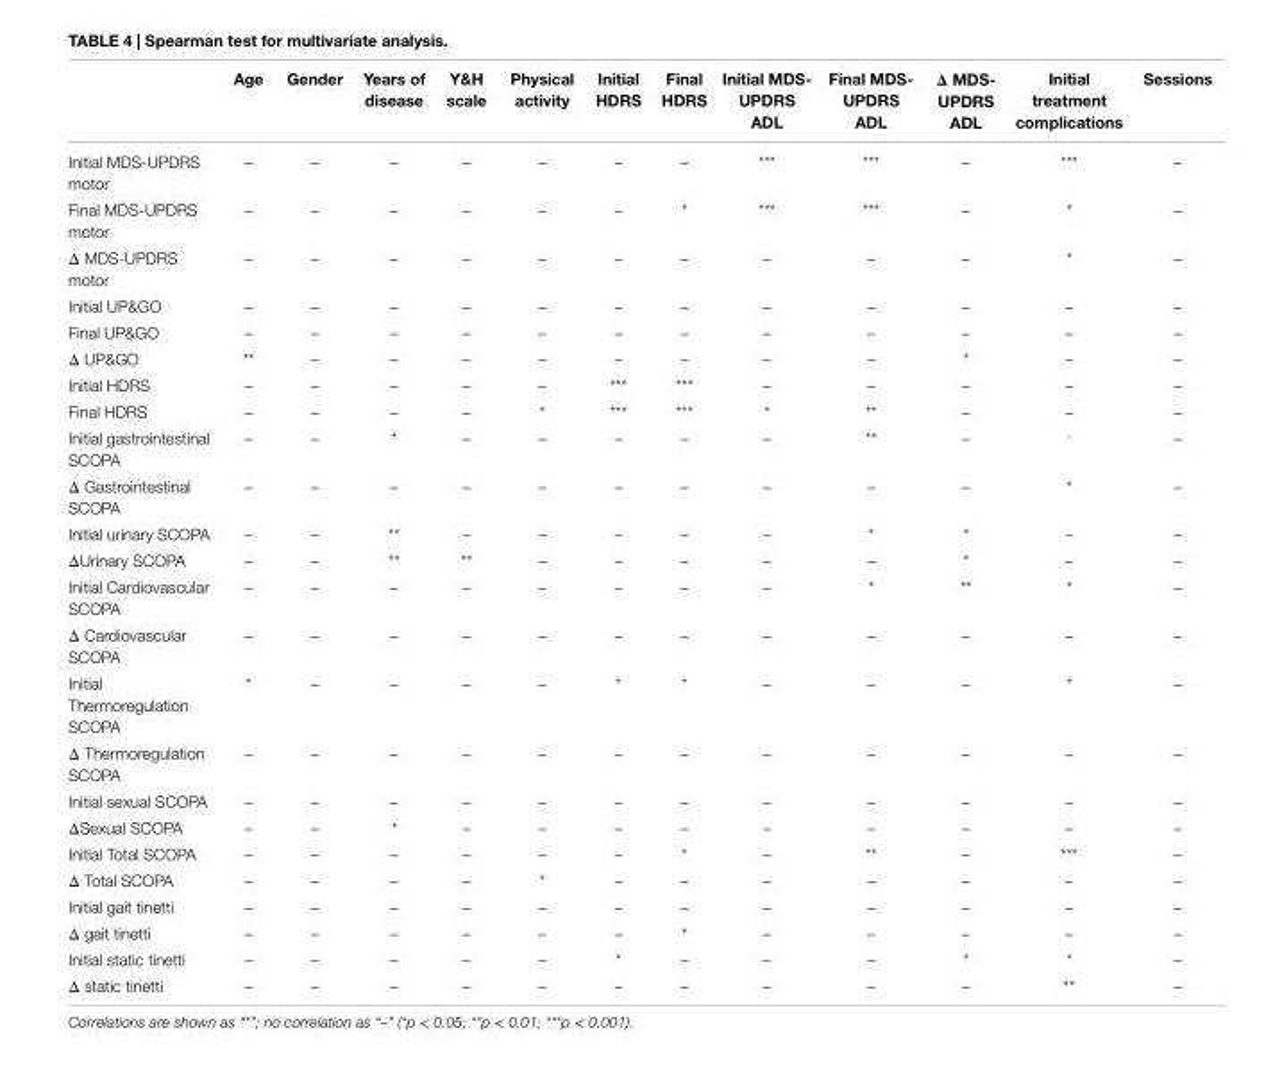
<table><thead><tr><td></td><td>age</td><td>gender</td><td>Years of disease</td><td>Y&amp;h scale</td><td>Physical activity</td><td>initial hDrs</td><td>Final hDrs</td><td>initial MDs- UPDrs aDl</td><td>Final MDs- UPDrs aDl</td><td>Δ MDs- UPDrs aDl</td><td>initial treatment complications</td><td>sessions</td></tr></thead><tbody><tr><td>Initial MDS-UPDRS motor</td><td>–</td><td>–</td><td>–</td><td>–</td><td>–</td><td>–</td><td>–</td><td>***</td><td>***</td><td>–</td><td>***</td><td>–</td></tr><tr><td>Final MDS-UPDRS motor</td><td>–</td><td>–</td><td>–</td><td>–</td><td>–</td><td>–</td><td>*</td><td>***</td><td>***</td><td>–</td><td>*</td><td>–</td></tr><tr><td>Δ MDS-UPDRS motor</td><td>–</td><td>–</td><td>–</td><td>–</td><td>–</td><td>–</td><td>–</td><td>–</td><td>–</td><td>–</td><td>*</td><td>–</td></tr><tr><td>Initial UP&amp;GO</td><td>–</td><td>–</td><td>–</td><td>–</td><td>–</td><td>–</td><td>–</td><td>–</td><td>–</td><td>–</td><td>–</td><td>–</td></tr><tr><td>Final UP&amp;GO</td><td>–</td><td>–</td><td>–</td><td>–</td><td>–</td><td>–</td><td>–</td><td>–</td><td>–</td><td>–</td><td>–</td><td>–</td></tr><tr><td>Δ UP&amp;GO</td><td>**</td><td>–</td><td>–</td><td>–</td><td>–</td><td>–</td><td>–</td><td>–</td><td>–</td><td>*</td><td>–</td><td>–</td></tr><tr><td>Initial HDRS</td><td>–</td><td>–</td><td>–</td><td>–</td><td>–</td><td>***</td><td>***</td><td>–</td><td>–</td><td>–</td><td>–</td><td>–</td></tr><tr><td>Final HDRS</td><td>–</td><td>–</td><td>–</td><td>–</td><td>*</td><td>***</td><td>***</td><td>*</td><td>**</td><td>–</td><td>–</td><td>–</td></tr><tr><td>Initial gastrointestinal SCOPA</td><td>–</td><td>–</td><td>*</td><td>–</td><td>–</td><td>–</td><td>–</td><td>–</td><td>**</td><td>–</td><td><sup>–</sup></td><td>–</td></tr><tr><td>Δ Gastrointestinal SCOPA</td><td>–</td><td>–</td><td>–</td><td>–</td><td>–</td><td>–</td><td>–</td><td>–</td><td>–</td><td>–</td><td>*</td><td>–</td></tr><tr><td>Initial urinary SCOPA</td><td>–</td><td>–</td><td>**</td><td>–</td><td>–</td><td>–</td><td>–</td><td>–</td><td>*</td><td>*</td><td>–</td><td>–</td></tr><tr><td>ΔUrinary SCOPA</td><td>–</td><td>–</td><td>**</td><td>**</td><td>–</td><td>–</td><td>–</td><td>–</td><td>–</td><td>*</td><td>–</td><td>–</td></tr><tr><td>Initial Cardiovascular SCOPA</td><td>–</td><td>–</td><td>–</td><td>–</td><td>–</td><td>–</td><td>–</td><td>–</td><td>*</td><td>**</td><td>*</td><td>–</td></tr><tr><td>Δ Cardiovascular SCOPA</td><td>–</td><td>–</td><td>–</td><td>–</td><td>–</td><td>–</td><td>–</td><td>–</td><td>–</td><td>–</td><td>–</td><td>–</td></tr><tr><td>Initial Thermoregulation SCOPA</td><td>*</td><td>–</td><td>–</td><td>–</td><td>–</td><td>*</td><td>*</td><td>–</td><td>–</td><td>–</td><td>*</td><td>–</td></tr><tr><td>Δ Thermoregulation SCOPA</td><td>–</td><td>–</td><td>–</td><td>–</td><td>–</td><td>–</td><td>–</td><td>–</td><td>–</td><td>–</td><td>–</td><td>–</td></tr><tr><td>Initial sexual SCOPA</td><td>–</td><td>–</td><td>–</td><td>–</td><td>–</td><td>–</td><td>–</td><td>–</td><td>–</td><td>–</td><td>–</td><td>–</td></tr><tr><td>ΔSexual SCOPA</td><td>–</td><td>–</td><td>*</td><td>–</td><td>–</td><td>–</td><td>–</td><td>–</td><td>–</td><td>–</td><td>–</td><td>–</td></tr><tr><td>Initial Total SCOPA</td><td>–</td><td>–</td><td>–</td><td>–</td><td>–</td><td>–</td><td>*</td><td>–</td><td>**</td><td>–</td><td>***</td><td>–</td></tr><tr><td>Δ Total SCOPA</td><td>–</td><td>–</td><td>–</td><td>–</td><td>*</td><td>–</td><td>–</td><td>–</td><td>–</td><td>–</td><td>–</td><td>–</td></tr><tr><td>Initial gait tinetti</td><td>–</td><td>–</td><td>–</td><td>–</td><td>–</td><td>–</td><td>–</td><td>–</td><td>–</td><td>–</td><td>–</td><td>–</td></tr><tr><td>Δ gait tinetti</td><td>–</td><td>–</td><td>–</td><td>–</td><td>–</td><td>–</td><td>*</td><td>–</td><td>–</td><td>–</td><td>–</td><td>–</td></tr><tr><td>Initial static tinetti</td><td>–</td><td>–</td><td>–</td><td>–</td><td>–</td><td>*</td><td>–</td><td>–</td><td>–</td><td>*</td><td>*</td><td>–</td></tr><tr><td>Δ static tinetti</td><td>–</td><td>–</td><td>–</td><td>–</td><td>–</td><td>–</td><td>–</td><td>–</td><td>–</td><td>–</td><td>**</td><td>–</td></tr></tbody></table>